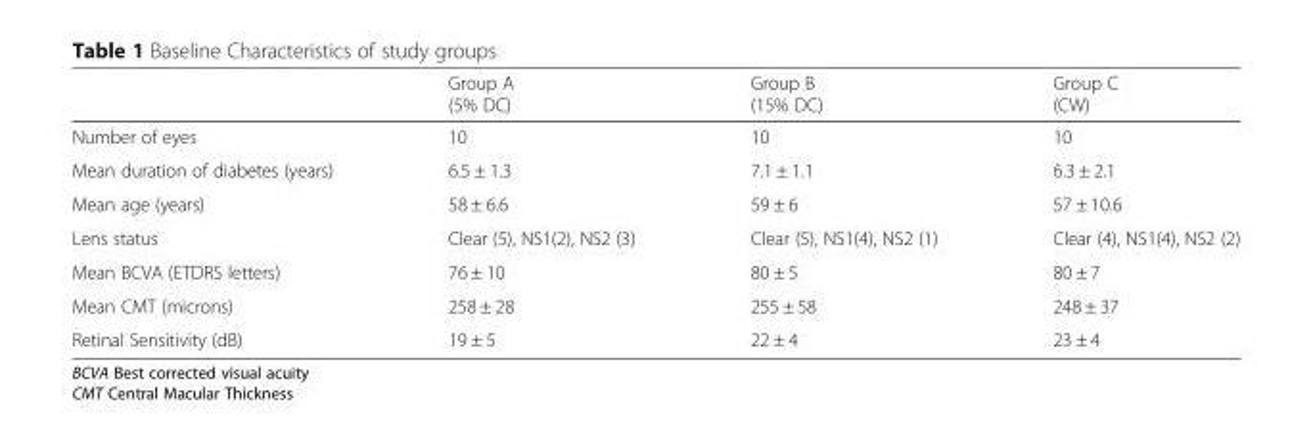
<table><thead><tr><td></td><td>Group A (5% DC)</td><td>Group B (15% DC)</td><td>Group C (CW)</td></tr></thead><tbody><tr><td>Number of eyes</td><td>10</td><td>10</td><td>10</td></tr><tr><td>Mean duration of diabetes (years)</td><td>6.5 ± 1.3</td><td>7.1 ± 1.1</td><td>6.3 ± 2.1</td></tr><tr><td>Mean age (years)</td><td>58 ± 6.6</td><td>59 ± 6</td><td>57 ± 10.6</td></tr><tr><td>Lens status</td><td>Clear (5), NS1(2), NS2 (3)</td><td>Clear (5), NS1(4), NS2 (1)</td><td>Clear (4), NS1(4), NS2 (2)</td></tr><tr><td>Mean BCVA (ETDRS letters)</td><td>76 ± 10</td><td>80 ± 5</td><td>80 ± 7</td></tr><tr><td>Mean CMT (microns)</td><td>258 ± 28</td><td>255 ± 58</td><td>248 ± 37</td></tr><tr><td>Retinal Sensitivity (dB)</td><td>19 ± 5</td><td>22 ± 4</td><td>23 ± 4</td></tr></tbody></table>